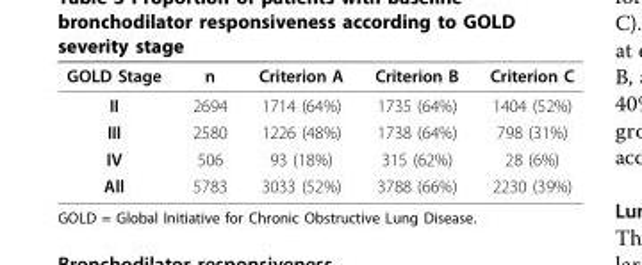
<table><thead><tr><td>GOLD Stage</td><td>n</td><td>Criterion A</td><td>Criterion B</td><td>Criterion C</td></tr></thead><tbody><tr><td>II</td><td>2694</td><td>1714 (64%)</td><td>1735 (64%)</td><td>1404 (52%)</td></tr><tr><td>III</td><td>2580</td><td>1226 (48%)</td><td>1738 (64%)</td><td>798 (31%)</td></tr><tr><td>IV</td><td>506</td><td>93 (18%)</td><td>315 (62%)</td><td>28 (6%)</td></tr><tr><td>All</td><td>5783</td><td>3033 (52%)</td><td>3788 (66%)</td><td>2230 (39%)</td></tr></tbody></table>